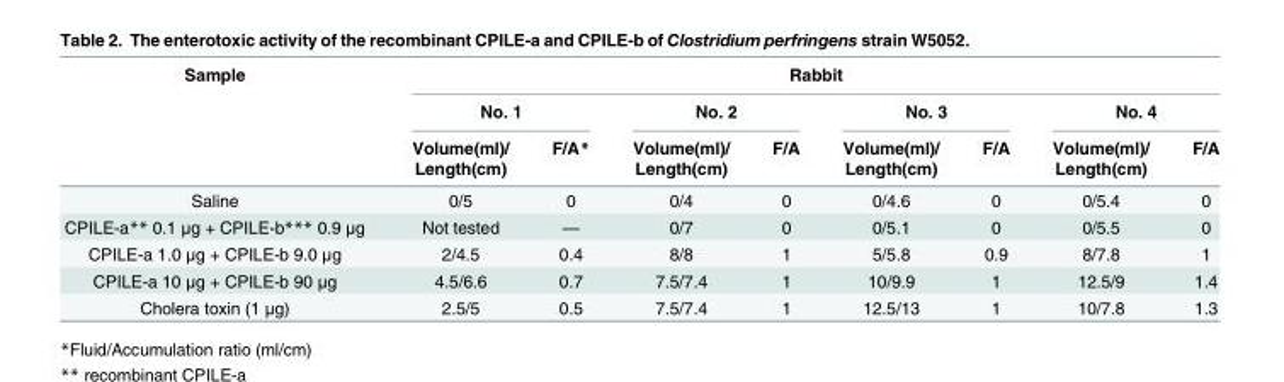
<table><thead><tr><td rowspan="3">Sample</td><td colspan="8">Rabbit</td></tr><tr><td colspan="2">No. 1</td><td colspan="2">No. 2</td><td colspan="2">No. 3</td><td colspan="2">No. 4</td></tr><tr><td>Volume(ml)/ Length(cm)</td><td>F/A*</td><td>Volume(ml)/ Length(cm)</td><td>F/A</td><td>Volume(ml)/ Length(cm)</td><td>F/A</td><td>Volume(ml)/ Length(cm)</td><td>F/A</td></tr></thead><tbody><tr><td>Saline</td><td>0/5</td><td>0</td><td>0/4</td><td>0</td><td>0/4.6</td><td>0</td><td>0/5.4</td><td>0</td></tr><tr><td>CPILE-a** 0.1 μg + CPILE-b*** 0.9 μg</td><td>Not tested</td><td>—</td><td>0/7</td><td>0</td><td>0/5.1</td><td>0</td><td>0/5.5</td><td>0</td></tr><tr><td>CPILE-a 1.0 μg + CPILE-b 9.0 μg</td><td>2/4.5</td><td>0.4</td><td>8/8</td><td>1</td><td>5/5.8</td><td>0.9</td><td>8/7.8</td><td>1</td></tr><tr><td>CPILE-a 10 μg + CPILE-b 90 μg</td><td>4.5/6.6</td><td>0.7</td><td>7.5/7.4</td><td>1</td><td>10/9.9</td><td>1</td><td>12.5/9</td><td>1.4</td></tr><tr><td>Cholera toxin (1 μg)</td><td>2.5/5</td><td>0.5</td><td>7.5/7.4</td><td>1</td><td>12.5/13</td><td>1</td><td>10/7.8</td><td>1.3</td></tr></tbody></table>